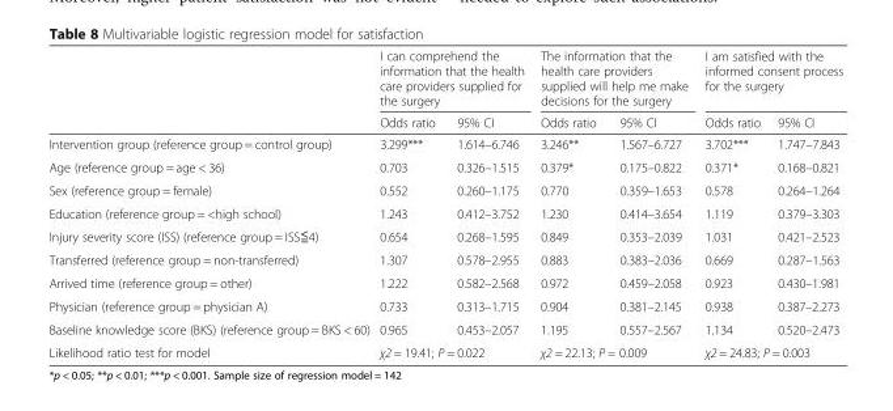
<table><thead><tr><td rowspan="2"></td><td colspan="2">I can comprehend the information that the health care providers supplied for the surgery</td><td colspan="2">The information that the health care providers supplied will help me make decisions for the surgery</td><td colspan="2">I am satisfied with the informed consent process for the surgery</td></tr><tr><td>Odds ratio</td><td>95% CI</td><td>Odds ratio</td><td>95% CI</td><td>Odds ratio</td><td>95% CI</td></tr></thead><tbody><tr><td>Intervention group (reference group = control group)</td><td>3.299***</td><td>1.614–6.746</td><td>3.246**</td><td>1.567–6.727</td><td>3.702***</td><td>1.747–7.843</td></tr><tr><td>Age (reference group = age &lt; 36)</td><td>0.703</td><td>0.326–1.515</td><td>0.379*</td><td>0.175–0.822</td><td>0.371*</td><td>0.168–0.821</td></tr><tr><td>Sex (reference group = female)</td><td>0.552</td><td>0.260–1.175</td><td>0.770</td><td>0.359–1.653</td><td>0.578</td><td>0.264–1.264</td></tr><tr><td>Education (reference group = &lt;high school)</td><td>1.243</td><td>0.412–3.752</td><td>1.230</td><td>0.414–3.654</td><td>1.119</td><td>0.379–3.303</td></tr><tr><td>Injury severity score (ISS) (reference group = ISS≦4)</td><td>0.654</td><td>0.268–1.595</td><td>0.849</td><td>0.353–2.039</td><td>1.031</td><td>0.421–2.523</td></tr><tr><td>Transferred (reference group = non-transferred)</td><td>1.307</td><td>0.578–2.955</td><td>0.883</td><td>0.383–2.036</td><td>0.669</td><td>0.287–1.563</td></tr><tr><td>Arrived time (reference group = other)</td><td>1.222</td><td>0.582–2.568</td><td>0.972</td><td>0.459–2.058</td><td>0.923</td><td>0.430–1.981</td></tr><tr><td>Physician (reference group = physician A)</td><td>0.733</td><td>0.313–1.715</td><td>0.904</td><td>0.381–2.145</td><td>0.938</td><td>0.387–2.273</td></tr><tr><td>Baseline knowledge score (BKS) (reference group = BKS &lt; 60)</td><td>0.965</td><td>0.453–2.057</td><td>1.195</td><td>0.557–2.567</td><td>1.134</td><td>0.520–2.473</td></tr><tr><td>Likelihood ratio test for model</td><td colspan="2">χ2 = 19.41; P = 0.022</td><td colspan="2">χ2 = 22.13; P = 0.009</td><td colspan="2">χ2 = 24.83; P = 0.003</td></tr></tbody></table>